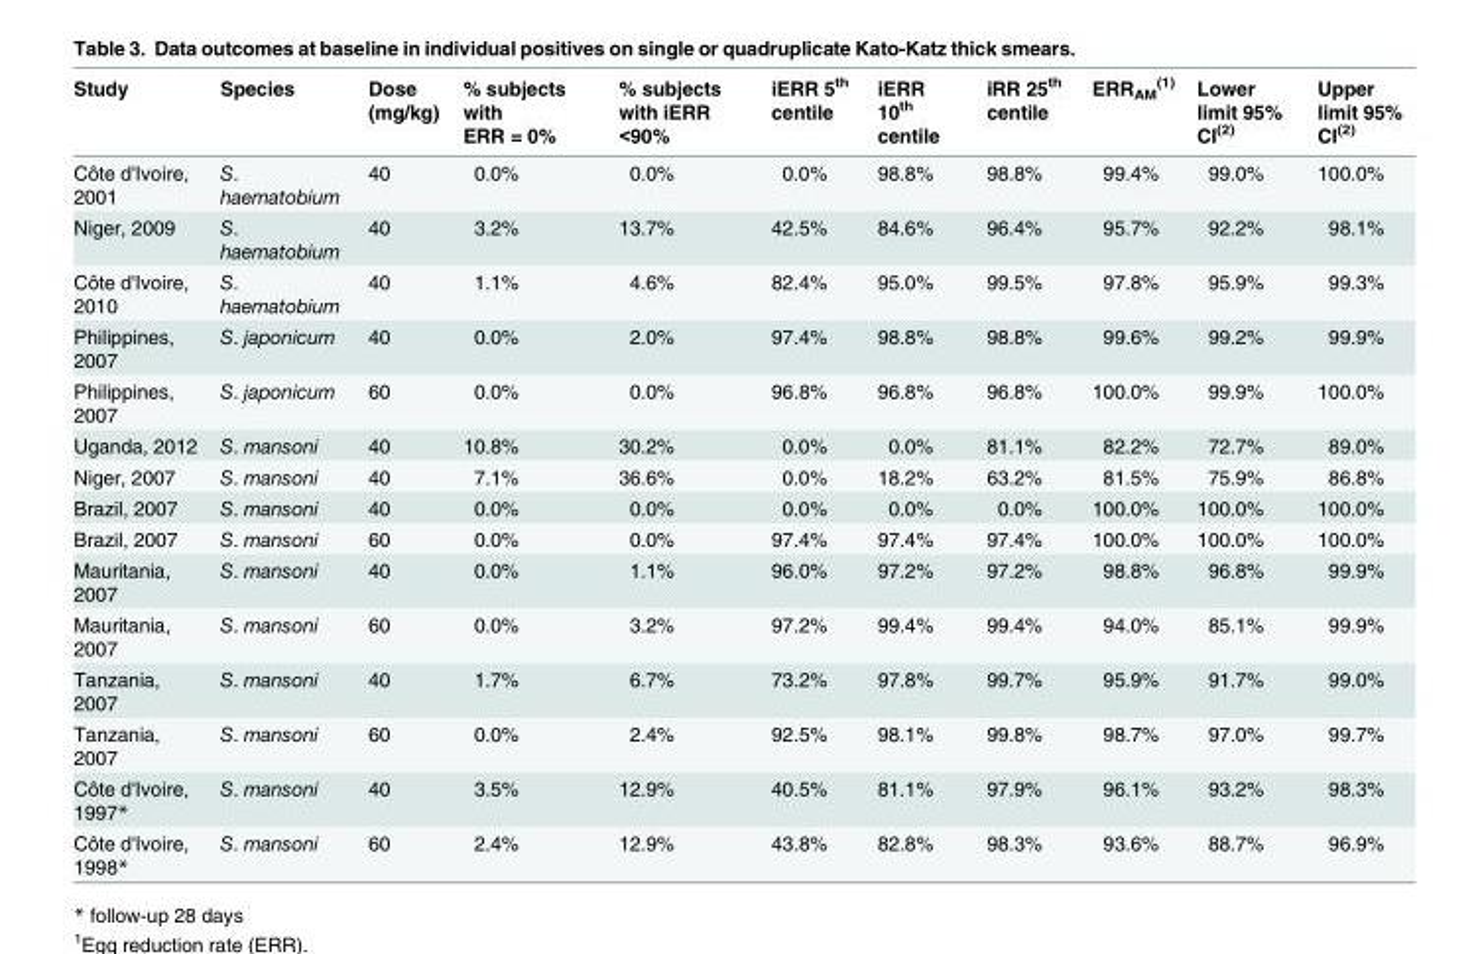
<table><thead><tr><td>Study</td><td>Species</td><td>Dose (mg/kg)</td><td>% subjects with ERR = 0%</td><td>% subjects with iERR &lt;90%</td><td>iERR 5<sup>th</sup> centile</td><td>iERR 10<sup>th</sup> centile</td><td>iRR 25<sup>th</sup> centile</td><td>ERR<sub>AM</sub> <sup>(1)</sup></td><td>Lower limit 95% CI<sup>(2)</sup></td><td>Upper limit 95% CI<sup>(2)</sup></td></tr></thead><tbody><tr><td>Côte d&#x27;Ivoire, 2001</td><td>S. haematobium</td><td>40</td><td>0.0%</td><td>0.0%</td><td>0.0%</td><td>98.8%</td><td>98.8%</td><td>99.4%</td><td>99.0%</td><td>100.0%</td></tr><tr><td>Niger, 2009</td><td>S. haematobium</td><td>40</td><td>3.2%</td><td>13.7%</td><td>42.5%</td><td>84.6%</td><td>96.4%</td><td>95.7%</td><td>92.2%</td><td>98.1%</td></tr><tr><td>Côte d&#x27;Ivoire, 2010</td><td>S. haematobium</td><td>40</td><td>1.1%</td><td>4.6%</td><td>82.4%</td><td>95.0%</td><td>99.5%</td><td>97.8%</td><td>95.9%</td><td>99.3%</td></tr><tr><td>Philippines, 2007</td><td>S. japonicum</td><td>40</td><td>0.0%</td><td>2.0%</td><td>97.4%</td><td>98.8%</td><td>98.8%</td><td>99.6%</td><td>99.2%</td><td>99.9%</td></tr><tr><td>Philippines, 2007</td><td>S. japonicum</td><td>60</td><td>0.0%</td><td>0.0%</td><td>96.8%</td><td>96.8%</td><td>96.8%</td><td>100.0%</td><td>99.9%</td><td>100.0%</td></tr><tr><td>Uganda, 2012</td><td>S. mansoni</td><td>40</td><td>10.8%</td><td>30.2%</td><td>0.0%</td><td>0.0%</td><td>81.1%</td><td>82.2%</td><td>72.7%</td><td>89.0%</td></tr><tr><td>Niger, 2007</td><td>S. mansoni</td><td>40</td><td>7.1%</td><td>36.6%</td><td>0.0%</td><td>18.2%</td><td>63.2%</td><td>81.5%</td><td>75.9%</td><td>86.8%</td></tr><tr><td>Brazil, 2007</td><td>S. mansoni</td><td>40</td><td>0.0%</td><td>0.0%</td><td>0.0%</td><td>0.0%</td><td>0.0%</td><td>100.0%</td><td>100.0%</td><td>100.0%</td></tr><tr><td>Brazil, 2007</td><td>S. mansoni</td><td>60</td><td>0.0%</td><td>0.0%</td><td>97.4%</td><td>97.4%</td><td>97.4%</td><td>100.0%</td><td>100.0%</td><td>100.0%</td></tr><tr><td>Mauritania, 2007</td><td>S. mansoni</td><td>40</td><td>0.0%</td><td>1.1%</td><td>96.0%</td><td>97.2%</td><td>97.2%</td><td>98.8%</td><td>96.8%</td><td>99.9%</td></tr><tr><td>Mauritania, 2007</td><td>S. mansoni</td><td>60</td><td>0.0%</td><td>3.2%</td><td>97.2%</td><td>99.4%</td><td>99.4%</td><td>94.0%</td><td>85.1%</td><td>99.9%</td></tr><tr><td>Tanzania, 2007</td><td>S. mansoni</td><td>40</td><td>1.7%</td><td>6.7%</td><td>73.2%</td><td>97.8%</td><td>99.7%</td><td>95.9%</td><td>91.7%</td><td>99.0%</td></tr><tr><td>Tanzania, 2007</td><td>S. mansoni</td><td>60</td><td>0.0%</td><td>2.4%</td><td>92.5%</td><td>98.1%</td><td>99.8%</td><td>98.7%</td><td>97.0%</td><td>99.7%</td></tr><tr><td>Côte d&#x27;Ivoire, 1997*</td><td>S. mansoni</td><td>40</td><td>3.5%</td><td>12.9%</td><td>40.5%</td><td>81.1%</td><td>97.9%</td><td>96.1%</td><td>93.2%</td><td>98.3%</td></tr><tr><td>Côte d&#x27;Ivoire, 1998*</td><td>S. mansoni</td><td>60</td><td>2.4%</td><td>12.9%</td><td>43.8%</td><td>82.8%</td><td>98.3%</td><td>93.6%</td><td>88.7%</td><td>96.9%</td></tr></tbody></table>